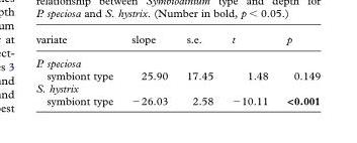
<table><thead><tr><td>variate</td><td>slope</td><td>s.e.</td><td>t</td><td>p</td></tr></thead><tbody><tr><td colspan="5">P. speciosa</td></tr><tr><td>symbiont type</td><td>25.90</td><td>17.45</td><td>1.48</td><td>0.149</td></tr><tr><td colspan="5">S. hystrix</td></tr><tr><td>symbiont type</td><td>−26.03</td><td>2.58</td><td>−10.11</td><td>&lt;0.001</td></tr></tbody></table>